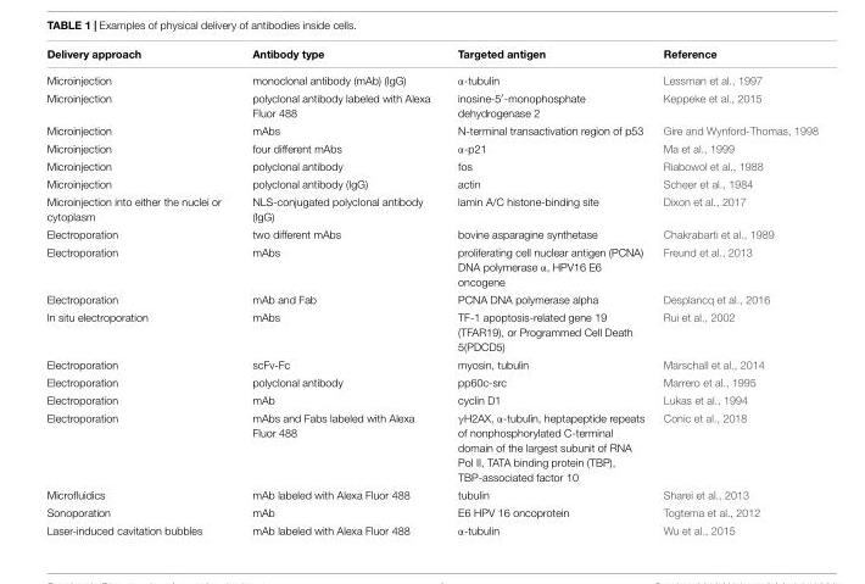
<table><thead><tr><td>Delivery approach</td><td>Antibody type</td><td>Targeted antigen</td><td>Reference</td></tr></thead><tbody><tr><td>Microinjection</td><td>monoclonal antibody (mAb) (IgG)</td><td>α-tubulin</td><td>Lessman et al., 1997</td></tr><tr><td>Microinjection</td><td>polyclonal antibody labeled with Alexa Fluor 488</td><td>inosine-5′-monophosphate dehydrogenase 2</td><td>Keppeke et al., 2015</td></tr><tr><td>Microinjection</td><td>mAbs</td><td>N-terminal transactivation region of p53</td><td>Gire and Wynford-Thomas, 1998</td></tr><tr><td>Microinjection</td><td>four different mAbs</td><td>α-p21</td><td>Ma et al., 1999</td></tr><tr><td>Microinjection</td><td>polyclonal antibody</td><td>fos</td><td>Riabowol et al., 1988</td></tr><tr><td>Microinjection</td><td>polyclonal antibody (IgG)</td><td>actin</td><td>Scheer et al., 1984</td></tr><tr><td>Microinjection into either the nuclei or cytoplasm</td><td>NLS-conjugated polyclonal antibody (IgG)</td><td>lamin A/C histone-binding site</td><td>Dixon et al., 2017</td></tr><tr><td>Electroporation</td><td>two different mAbs</td><td>bovine asparagine synthetase</td><td>Chakrabarti et al., 1989</td></tr><tr><td>Electroporation</td><td>mAbs</td><td>proliferating cell nuclear antigen (PCNA) DNA polymerase α, HPV16 E6 oncogene</td><td>Freund et al., 2013</td></tr><tr><td>Electroporation</td><td>mAb and Fab</td><td>PCNA DNA polymerase alpha</td><td>Desplancq et al., 2016</td></tr><tr><td>In situ electroporation</td><td>mAbs</td><td>TF-1 apoptosis-related gene 19 (TFAR19), or Programmed Cell Death 5(PDCD5)</td><td>Rui et al., 2002</td></tr><tr><td>Electroporation</td><td>scFv-Fc</td><td>myosin, tubulin</td><td>Marschall et al., 2014</td></tr><tr><td>Electroporation</td><td>polyclonal antibody</td><td>pp60c-src</td><td>Marrero et al., 1995</td></tr><tr><td>Electroporation</td><td>mAb</td><td>cyclin D1</td><td>Lukas et al., 1994</td></tr><tr><td>Electroporation</td><td>mAbs and Fabs labeled with Alexa Fluor 488</td><td>γH2AX, α-tubulin, heptapeptide repeats of nonphosphorylated C-terminal domain of the largest subunit of RNA Pol II, TATA binding protein (TBP), TBP-associated factor 10</td><td>Conic et al., 2018</td></tr><tr><td>Microfluidics</td><td>mAb labeled with Alexa Fluor 488</td><td>tubulin</td><td>Sharei et al., 2013</td></tr><tr><td>Sonoporation</td><td>mAb</td><td>E6 HPV 16 oncoprotein</td><td>Togtema et al., 2012</td></tr><tr><td>Laser-induced cavitation bubbles</td><td>mAb labeled with Alexa Fluor 488</td><td>α-tubulin</td><td>Wu et al., 2015</td></tr></tbody></table>